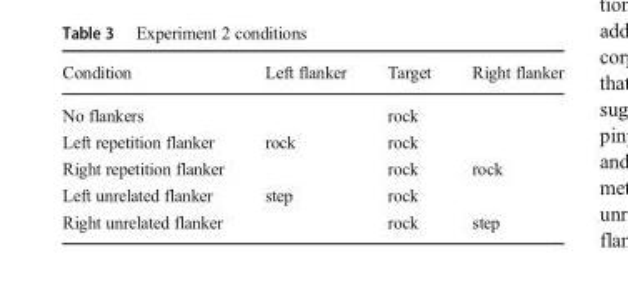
<table><thead><tr><td>Condition</td><td>Left flanker</td><td>Target</td><td>Right flanker</td></tr></thead><tbody><tr><td>No flankers</td><td></td><td>rock</td><td></td></tr><tr><td>Left repetition flanker</td><td>rock</td><td>rock</td><td></td></tr><tr><td>Right repetition flanker</td><td></td><td>rock</td><td>rock</td></tr><tr><td>Left unrelated flanker</td><td>step</td><td>rock</td><td></td></tr><tr><td>Right unrelated flanker</td><td></td><td>rock</td><td>step</td></tr></tbody></table>